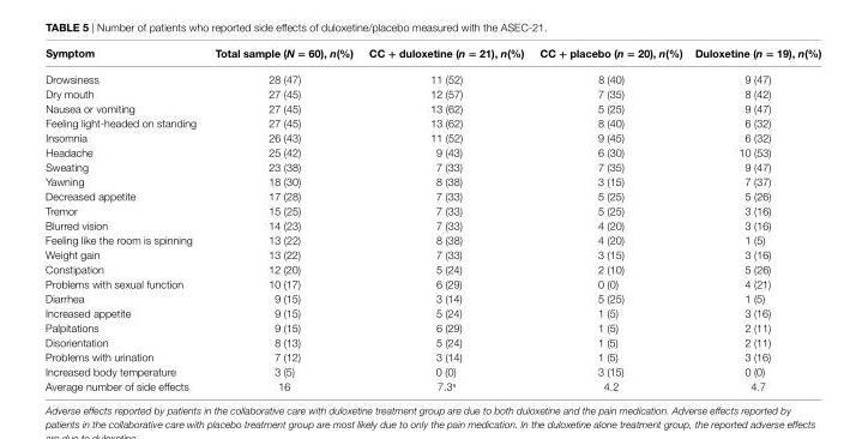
<table><thead><tr><td>Symptom</td><td>Total sample (N = 60), n(%)</td><td>CC + duloxetine (n = 21), n(%)</td><td>CC + placebo (n = 20), n(%)</td><td>Duloxetine (n = 19), n(%)</td></tr></thead><tbody><tr><td>Drowsiness</td><td>28 (47)</td><td>11 (52)</td><td>8 (40)</td><td>9 (47)</td></tr><tr><td>Dry mouth</td><td>27 (45)</td><td>12 (57)</td><td>7 (35)</td><td>8 (42)</td></tr><tr><td>Nausea or vomiting</td><td>27 (45)</td><td>13 (62)</td><td>5 (25)</td><td>9 (47)</td></tr><tr><td>Feeling light-headed on standing</td><td>27 (45)</td><td>13 (62)</td><td>8 (40)</td><td>6 (32)</td></tr><tr><td>Insomnia</td><td>26 (43)</td><td>11 (52)</td><td>9 (45)</td><td>6 (32)</td></tr><tr><td>Headache</td><td>25 (42)</td><td>9 (43)</td><td>6 (30)</td><td>10 (53)</td></tr><tr><td>Sweating</td><td>23 (38)</td><td>7 (33)</td><td>7 (35)</td><td>9 (47)</td></tr><tr><td>Yawning</td><td>18 (30)</td><td>8 (38)</td><td>3 (15)</td><td>7 (37)</td></tr><tr><td>Decreased appetite</td><td>17 (28)</td><td>7 (33)</td><td>5 (25)</td><td>5 (26)</td></tr><tr><td>Tremor</td><td>15 (25)</td><td>7 (33)</td><td>5 (25)</td><td>3 (16)</td></tr><tr><td>Blurred vision</td><td>14 (23)</td><td>7 (33)</td><td>4 (20)</td><td>3 (16)</td></tr><tr><td>Feeling like the room is spinning</td><td>13 (22)</td><td>8 (38)</td><td>4 (20)</td><td>1 (5)</td></tr><tr><td>Weight gain</td><td>13 (22)</td><td>7 (33)</td><td>3 (15)</td><td>3 (16)</td></tr><tr><td>Constipation</td><td>12 (20)</td><td>5 (24)</td><td>2 (10)</td><td>5 (26)</td></tr><tr><td>Problems with sexual function</td><td>10 (17)</td><td>6 (29)</td><td>0 (0)</td><td>4 (21)</td></tr><tr><td>Diarrhea</td><td>9 (15)</td><td>3 (14)</td><td>5 (25)</td><td>1 (5)</td></tr><tr><td>Increased appetite</td><td>9 (15)</td><td>5 (24)</td><td>1 (5)</td><td>3 (16)</td></tr><tr><td>Palpitations</td><td>9 (15)</td><td>6 (29)</td><td>1 (5)</td><td>2 (11)</td></tr><tr><td>Disorientation</td><td>8 (13)</td><td>5 (24)</td><td>1 (5)</td><td>2 (11)</td></tr><tr><td>Problems with urination</td><td>7 (12)</td><td>3 (14)</td><td>1 (5)</td><td>3 (16)</td></tr><tr><td>Increased body temperature</td><td>3 (5)</td><td>0 (0)</td><td>3 (15)</td><td>0 (0)</td></tr><tr><td>Average number of side effects</td><td>16</td><td>7.3<sup>a</sup></td><td>4.2</td><td>4.7</td></tr></tbody></table>